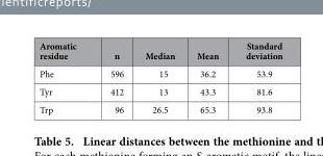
<table><thead><tr><td>Aromatic residue</td><td>n</td><td>Median</td><td>Mean</td><td>Standard deviation</td></tr></thead><tbody><tr><td>Phe</td><td>596</td><td>15</td><td>36.2</td><td>53.9</td></tr><tr><td>Tyr</td><td>412</td><td>13</td><td>43.3</td><td>81.6</td></tr><tr><td>Trp</td><td>96</td><td>26.5</td><td>65.3</td><td>93.8</td></tr></tbody></table>